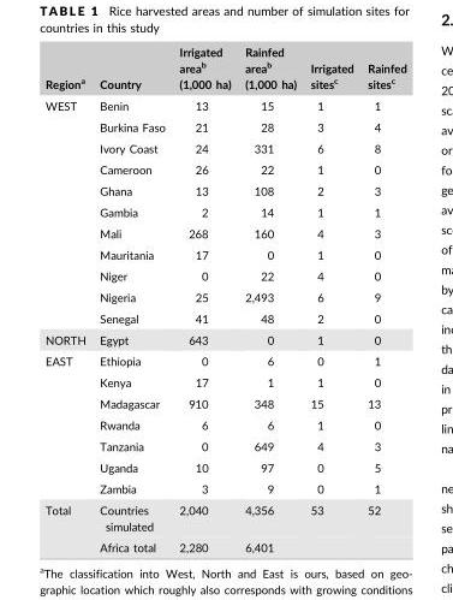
<table><thead><tr><td>Region<sup>a</sup></td><td>Country</td><td>Irrigated area<sup>b</sup> (1,000 ha)</td><td>Rainfed area<sup>b</sup> (1,000 ha)</td><td>Irrigated sites<sup>c</sup></td><td>Rainfed sites<sup>c</sup></td></tr></thead><tbody><tr><td rowspan="11">WEST</td><td>Benin</td><td>13</td><td>15</td><td>1</td><td>1</td></tr><tr><td>Burkina Faso</td><td>21</td><td>28</td><td>3</td><td>4</td></tr><tr><td>Ivory Coast</td><td>24</td><td>331</td><td>6</td><td>8</td></tr><tr><td>Cameroon</td><td>26</td><td>22</td><td>1</td><td>0</td></tr><tr><td>Ghana</td><td>13</td><td>108</td><td>2</td><td>3</td></tr><tr><td>Gambia</td><td>2</td><td>14</td><td>1</td><td>1</td></tr><tr><td>Mali</td><td>268</td><td>160</td><td>4</td><td>3</td></tr><tr><td>Mauritania</td><td>17</td><td>0</td><td>1</td><td>0</td></tr><tr><td>Niger</td><td>0</td><td>22</td><td>4</td><td>0</td></tr><tr><td>Nigeria</td><td>25</td><td>2,493</td><td>6</td><td>9</td></tr><tr><td>Senegal</td><td>41</td><td>48</td><td>2</td><td>0</td></tr><tr><td>NORTH</td><td>Egypt</td><td>643</td><td>0</td><td>1</td><td>0</td></tr><tr><td rowspan="7">EAST</td><td>Ethiopia</td><td>0</td><td>6</td><td>0</td><td>1</td></tr><tr><td>Kenya</td><td>17</td><td>1</td><td>1</td><td>0</td></tr><tr><td>Madagascar</td><td>910</td><td>348</td><td>15</td><td>13</td></tr><tr><td>Rwanda</td><td>6</td><td>6</td><td>1</td><td>0</td></tr><tr><td>Tanzania</td><td>0</td><td>649</td><td>4</td><td>3</td></tr><tr><td>Uganda</td><td>10</td><td>97</td><td>0</td><td>5</td></tr><tr><td>Zambia</td><td>3</td><td>9</td><td>0</td><td>1</td></tr><tr><td rowspan="2">Total</td><td>Countries simulated</td><td>2,040</td><td>4,356</td><td>53</td><td>52</td></tr><tr><td>Africa total</td><td>2,280</td><td>6,401</td><td></td><td></td></tr></tbody></table>